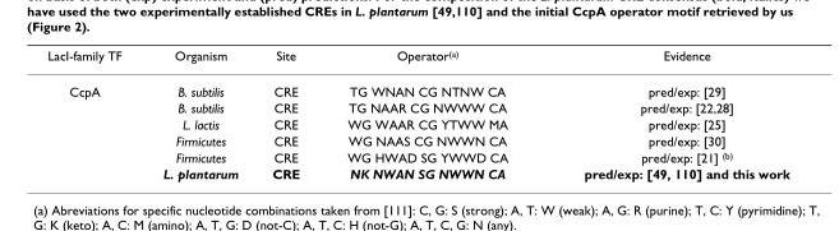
<table><thead><tr><td>LacI-family TF</td><td>Organism</td><td>Site</td><td>Operator<sup>(a)</sup></td><td>Evidence</td></tr></thead><tbody><tr><td rowspan="6">CcpA</td><td>B. subtilis</td><td>CRE</td><td>TG WNAN CG NTNW CA</td><td>pred/exp: [29]</td></tr><tr><td>B. subtilis</td><td>CRE</td><td>TG NAAR CG NWWW CA</td><td>pred/exp: [22,28]</td></tr><tr><td>L. lactis</td><td>CRE</td><td>WG WAAR CG YTWW MA</td><td>pred/exp: [25]</td></tr><tr><td>Firmicutes</td><td>CRE</td><td>WG NAAS CG NWWN CA</td><td>pred/exp: [30]</td></tr><tr><td>Firmicutes</td><td>CRE</td><td>WG HWAD SG YWWD CA</td><td>pred/exp: [21] <sup>(b)</sup></td></tr><tr><td>L. plantarum</td><td>CRE</td><td>NK NWAN SG NWWN CA</td><td>pred/exp: [49, 110] and this work</td></tr></tbody></table>